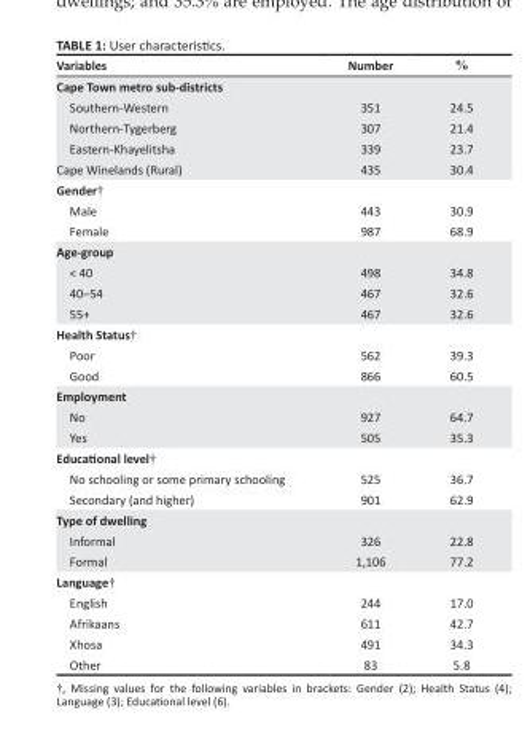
<table><thead><tr><td>Variables</td><td>Number</td><td>%</td></tr></thead><tbody><tr><td colspan="3">Cape Town metro sub-districts</td></tr><tr><td>Southern-Western</td><td>351</td><td>24.5</td></tr><tr><td>Northern-Tygerberg</td><td>307</td><td>21.4</td></tr><tr><td>Eastern-Khayelitsha</td><td>339</td><td>23.7</td></tr><tr><td>Cape Winelands (Rural)</td><td>435</td><td>30.4</td></tr><tr><td colspan="3">Gender†</td></tr><tr><td>Male</td><td>443</td><td>30.9</td></tr><tr><td>Female</td><td>987</td><td>68.9</td></tr><tr><td colspan="3">Age-group</td></tr><tr><td>&lt; 40</td><td>498</td><td>34.8</td></tr><tr><td>40–54</td><td>467</td><td>32.6</td></tr><tr><td>55+</td><td>467</td><td>32.6</td></tr><tr><td colspan="3">Health Status†</td></tr><tr><td>Poor</td><td>562</td><td>39.3</td></tr><tr><td>Good</td><td>866</td><td>60.5</td></tr><tr><td colspan="3">Employment</td></tr><tr><td>No</td><td>927</td><td>64.7</td></tr><tr><td>Yes</td><td>505</td><td>35.3</td></tr><tr><td colspan="3">Educational level†</td></tr><tr><td>No schooling or some primary schooling</td><td>525</td><td>36.7</td></tr><tr><td>Secondary (and higher)</td><td>901</td><td>62.9</td></tr><tr><td colspan="3">Type of dwelling</td></tr><tr><td>Informal</td><td>326</td><td>22.8</td></tr><tr><td>Formal</td><td>1,106</td><td>77.2</td></tr><tr><td colspan="3">Language†</td></tr><tr><td>English</td><td>244</td><td>17.0</td></tr><tr><td>Afrikaans</td><td>611</td><td>42.7</td></tr><tr><td>Xhosa</td><td>491</td><td>34.3</td></tr><tr><td>Other</td><td>83</td><td>5.8</td></tr></tbody></table>